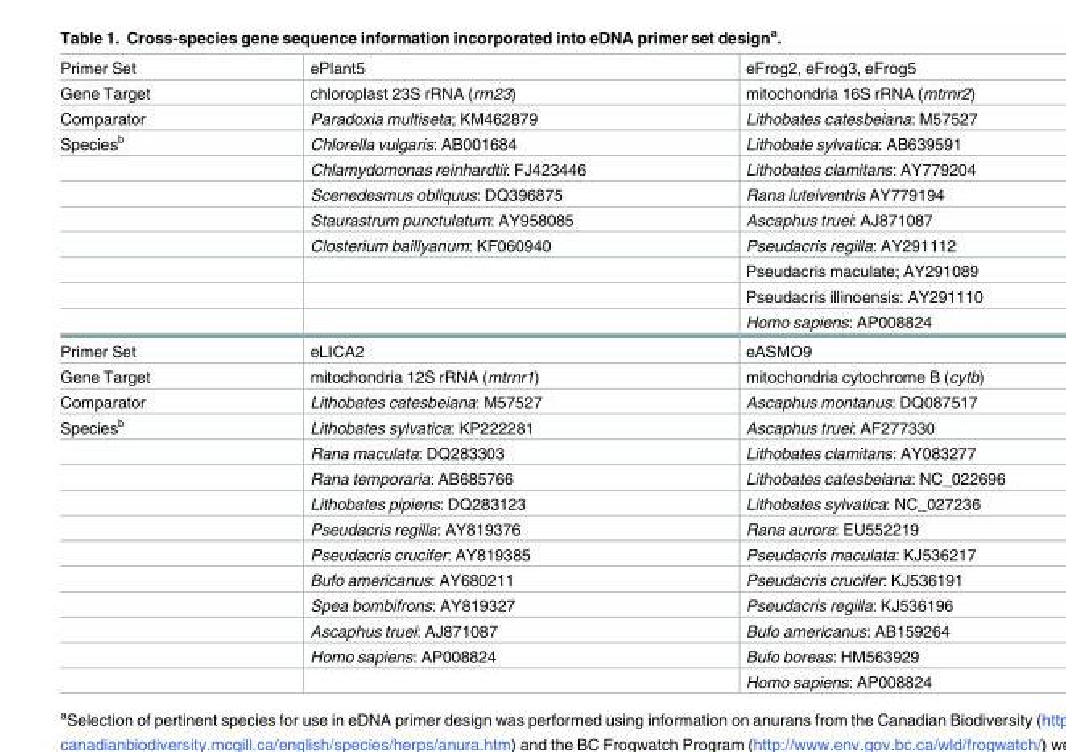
<table><tbody><tr><td>Primer Set</td><td>ePlant5</td><td>eFrog2, eFrog3, eFrog5</td></tr><tr><td>Gene Target</td><td>chloroplast 23S rRNA (rrn23)</td><td>mitochondria 16S rRNA (mtrnr2)</td></tr><tr><td>Comparator</td><td>Paradoxia multiseta; KM462879</td><td>Lithobates catesbeiana: M57527</td></tr><tr><td rowspan="8">Species<sup>b</sup></td><td>Chlorella vulgaris: AB001684</td><td>Lithobate sylvatica: AB639591</td></tr><tr><td>Chlamydomonas reinhardtii: FJ423446</td><td>Lithobates clamitans: AY779204</td></tr><tr><td>Scenedesmus obliquus: DQ396875</td><td>Rana luteiventris AY779194</td></tr><tr><td>Staurastrum punctulatum: AY958085</td><td>Ascaphus truei: AJ871087</td></tr><tr><td>Closterium baillyanum: KF060940</td><td>Pseudacris regilla: AY291112</td></tr><tr><td></td><td>Pseudacris maculate; AY291089</td></tr><tr><td></td><td>Pseudacris illinoensis: AY291110</td></tr><tr><td></td><td>Homo sapiens: AP008824</td></tr><tr><td>Primer Set</td><td>eLICA2</td><td>eASMO9</td></tr><tr><td>Gene Target</td><td>mitochondria 12S rRNA (mtrnr1)</td><td>mitochondria cytochrome B (cytb)</td></tr><tr><td>Comparator</td><td>Lithobates catesbeiana: M57527</td><td>Ascaphus montanus: DQ087517</td></tr><tr><td rowspan="11">Species<sup>b</sup></td><td>Lithobates sylvatica: KP222281</td><td>Ascaphus truei: AF277330</td></tr><tr><td>Rana maculata: DQ283303</td><td>Lithobates clamitans: AY083277</td></tr><tr><td>Rana temporaria: AB685766</td><td>Lithobates catesbeiana: NC_022696</td></tr><tr><td>Lithobates pipiens: DQ283123</td><td>Lithobates sylvatica: NC_027236</td></tr><tr><td>Pseudacris regilla: AY819376</td><td>Rana aurora: EU552219</td></tr><tr><td>Pseudacris crucifer: AY819385</td><td>Pseudacris maculata: KJ536217</td></tr><tr><td>Bufo americanus: AY680211</td><td>Pseudacris crucifer: KJ536191</td></tr><tr><td>Spea bombifrons: AY819327</td><td>Pseudacris regilla: KJ536196</td></tr><tr><td>Ascaphus truei: AJ871087</td><td>Bufo americanus: AB159264</td></tr><tr><td>Homo sapiens: AP008824</td><td>Bufo boreas: HM563929</td></tr><tr><td></td><td>Homo sapiens: AP008824</td></tr></tbody></table>